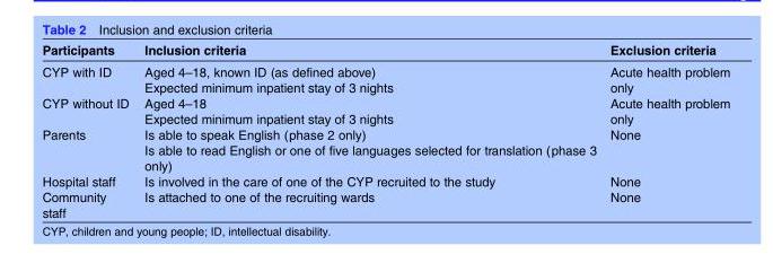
<table><thead><tr><td>Participants</td><td>Inclusion criteria</td><td>Exclusion criteria</td></tr></thead><tbody><tr><td>CYP with ID</td><td>Aged 4–18, known ID (as defined above) Expected minimum inpatient stay of 3 nights</td><td>Acute health problem only</td></tr><tr><td>CYP without ID</td><td>Aged 4–18 Expected minimum inpatient stay of 3 nights</td><td>Acute health problem only</td></tr><tr><td>Parents</td><td>Is able to speak English (phase 2 only) Is able to read English or one of five languages selected for translation (phase 3 only)</td><td>None</td></tr><tr><td>Hospital staff</td><td>Is involved in the care of one of the CYP recruited to the study</td><td>None</td></tr><tr><td>Community staff</td><td>Is attached to one of the recruiting wards</td><td>None</td></tr></tbody></table>